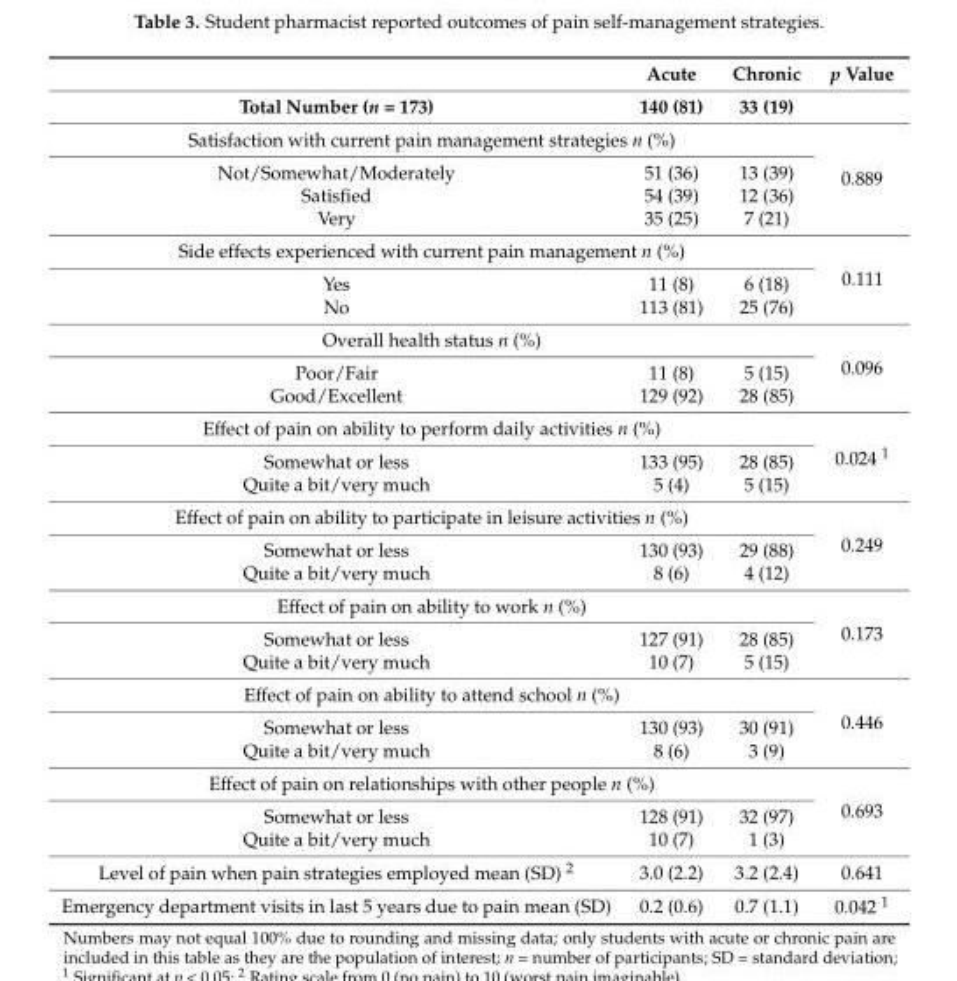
<table><thead><tr><td rowspan="2">Total Number (n = 173)</td><td rowspan="2">Acute 140 (81)</td><td rowspan="2">Chronic 33 (19)</td><td rowspan="2">p Value</td></tr><tr></tr></thead><tbody><tr><td colspan="3">Satisfaction with current pain management strategies n (%)</td><td rowspan="4">0.889</td></tr><tr><td>Not/Somewhat/Moderately</td><td>51 (36)</td><td>13 (39)</td></tr><tr><td>Satisfied</td><td>54 (39)</td><td>12 (36)</td></tr><tr><td>Very</td><td>35 (25)</td><td>7 (21)</td></tr><tr><td colspan="3">Side effects experienced with current pain management n (%)</td><td rowspan="3">0.111</td></tr><tr><td>Yes</td><td>11 (8)</td><td>6 (18)</td></tr><tr><td>No</td><td>113 (81)</td><td>25 (76)</td></tr><tr><td colspan="3">Overall health status n (%)</td><td rowspan="3">0.096</td></tr><tr><td>Poor/Fair</td><td>11 (8)</td><td>5 (15)</td></tr><tr><td>Good/Excellent</td><td>129 (92)</td><td>28 (85)</td></tr><tr><td colspan="3">Effect of pain on ability to perform daily activities n (%)</td><td rowspan="3">0.024 <sup>1</sup></td></tr><tr><td>Somewhat or less</td><td>133 (95)</td><td>28 (85)</td></tr><tr><td>Quite a bit/very much</td><td>5 (4)</td><td>5 (15)</td></tr><tr><td colspan="3">Effect of pain on ability to participate in leisure activities n (%)</td><td rowspan="3">0.249</td></tr><tr><td>Somewhat or less</td><td>130 (93)</td><td>29 (88)</td></tr><tr><td>Quite a bit/very much</td><td>8 (6)</td><td>4 (12)</td></tr><tr><td colspan="3">Effect of pain on ability to work n (%)</td><td rowspan="3">0.173</td></tr><tr><td>Somewhat or less</td><td>127 (91)</td><td>28 (85)</td></tr><tr><td>Quite a bit/very much</td><td>10 (7)</td><td>5 (15)</td></tr><tr><td colspan="3">Effect of pain on ability to attend school n (%)</td><td rowspan="3">0.446</td></tr><tr><td>Somewhat or less</td><td>130 (93)</td><td>30 (91)</td></tr><tr><td>Quite a bit/very much</td><td>8 (6)</td><td>3 (9)</td></tr><tr><td colspan="3">Effect of pain on relationships with other people n (%)</td><td rowspan="3">0.693</td></tr><tr><td>Somewhat or less</td><td>128 (91)</td><td>32 (97)</td></tr><tr><td>Quite a bit/very much</td><td>10 (7)</td><td>1 (3)</td></tr><tr><td>Level of pain when pain strategies employed mean (SD) <sup>2</sup></td><td>3.0 (2.2)</td><td>3.2 (2.4)</td><td>0.641</td></tr><tr><td>Emergency department visits in last 5 years due to pain mean (SD)</td><td>0.2 (0.6)</td><td>0.7 (1.1)</td><td>0.042 <sup>1</sup></td></tr></tbody></table>